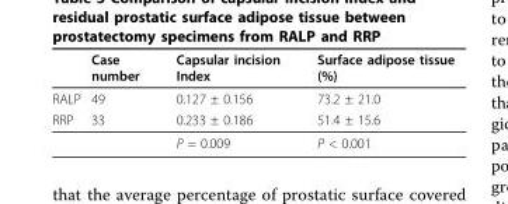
<table><thead><tr><td></td><td>Case number</td><td>Capsular incision Index</td><td>Surface adipose tissue (%)</td></tr></thead><tbody><tr><td>RALP</td><td>49</td><td>0.127 ± 0.156</td><td>73.2 ± 21.0</td></tr><tr><td rowspan="2">RRP</td><td>33</td><td>0.233 ± 0.186</td><td>51.4 ± 15.6</td></tr><tr><td></td><td>P = 0.009</td><td>P &lt; 0.001</td></tr></tbody></table>